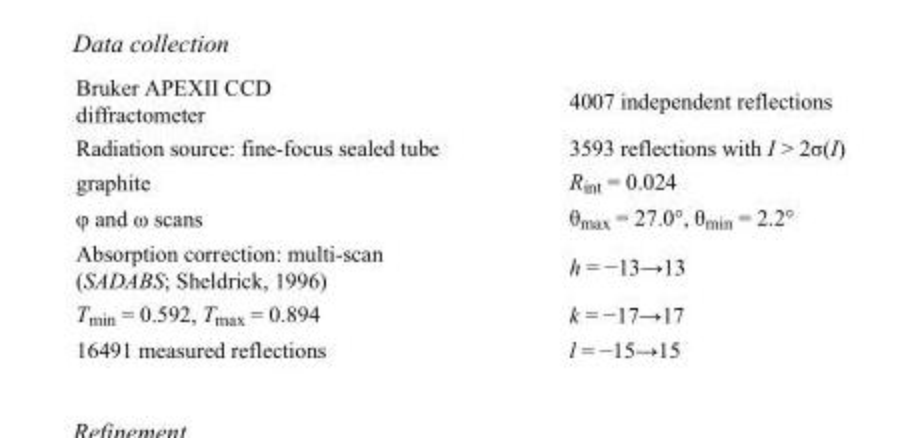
<table><tbody><tr><td>Bruker APEXII CCD diffractometer</td><td>4007 independent reflections</td></tr><tr><td>Radiation source: fine-focus sealed tube</td><td>3593 reflections with I &gt; 2σ(I)</td></tr><tr><td>graphite</td><td>R<sub>int</sub> = 0.024</td></tr><tr><td>φ and ω scans</td><td>θ<sub>max</sub> = 27.0°, θ<sub>min</sub> = 2.2°</td></tr><tr><td>Absorption correction: multi-scan (SADABS; Sheldrick, 1996)</td><td>h = −13→13</td></tr><tr><td>T<sub>min</sub> = 0.592, T<sub>max</sub> = 0.894</td><td>k = −17→17</td></tr><tr><td>16491 measured reflections</td><td>l = −15→15</td></tr></tbody></table>